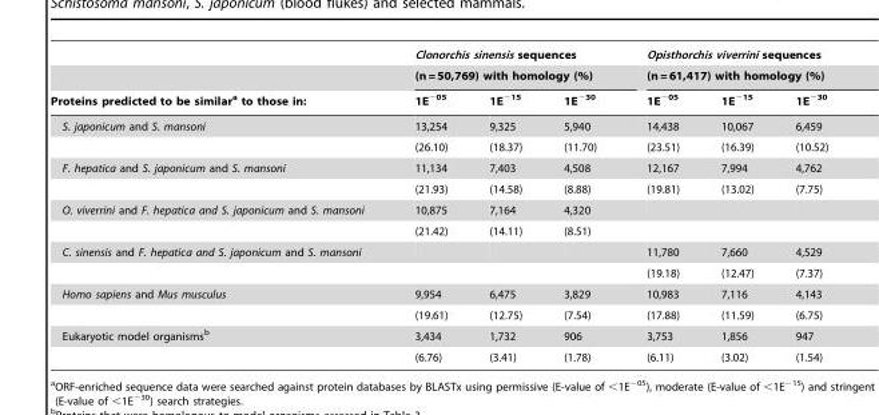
<table><thead><tr><td rowspan="3">Proteins predicted to be similar<sup>a</sup> to those in:</td><td rowspan="2" colspan="3">Clonorchis sinensis sequences (n = 50,769) with homology (%)</td><td rowspan="2" colspan="3">Opisthorchis viverrini sequences (n = 61,417) with homology (%)</td></tr><tr></tr><tr><td>1E<sup>−05</sup></td><td>1E<sup>−15</sup></td><td>1E<sup>−30</sup></td><td>1E<sup>−05</sup></td><td>1E<sup>−15</sup></td><td>1E<sup>−30</sup></td></tr></thead><tbody><tr><td rowspan="2">S. japonicum and S. mansoni</td><td>13,254</td><td>9,325</td><td>5,940</td><td>14,438</td><td>10,067</td><td>6,459</td></tr><tr><td>(26.10)</td><td>(18.37)</td><td>(11.70)</td><td>(23.51)</td><td>(16.39)</td><td>(10.52)</td></tr><tr><td rowspan="2">F. hepatica and S. japonicum and S. mansoni</td><td>11,134</td><td>7,403</td><td>4,508</td><td>12,167</td><td>7,994</td><td>4,762</td></tr><tr><td>(21.93)</td><td>(14.58)</td><td>(8.88)</td><td>(19.81)</td><td>(13.02)</td><td>(7.75)</td></tr><tr><td rowspan="2">O. viverrini and F. hepatica and S. japonicum and S. mansoni</td><td>10,875</td><td>7,164</td><td>4,320</td><td></td><td></td><td></td></tr><tr><td>(21.42)</td><td>(14.11)</td><td>(8.51)</td><td></td><td></td><td></td></tr><tr><td rowspan="2">C. sinensis and F. hepatica and S. japonicum and S. mansoni</td><td></td><td></td><td></td><td>11,780</td><td>7,660</td><td>4,529</td></tr><tr><td></td><td></td><td></td><td>(19.18)</td><td>(12.47)</td><td>(7.37)</td></tr><tr><td rowspan="2">Homo sapiens and Mus musculus</td><td>9,954</td><td>6,475</td><td>3,829</td><td>10,983</td><td>7,116</td><td>4,143</td></tr><tr><td>(19.61)</td><td>(12.75)</td><td>(7.54)</td><td>(17.88)</td><td>(11.59)</td><td>(6.75)</td></tr><tr><td rowspan="2">Eukaryotic model organisms<sup>b</sup></td><td>3,434</td><td>1,732</td><td>906</td><td>3,753</td><td>1,856</td><td>947</td></tr><tr><td>(6.76)</td><td>(3.41)</td><td>(1.78)</td><td>(6.11)</td><td>(3.02)</td><td>(1.54)</td></tr></tbody></table>